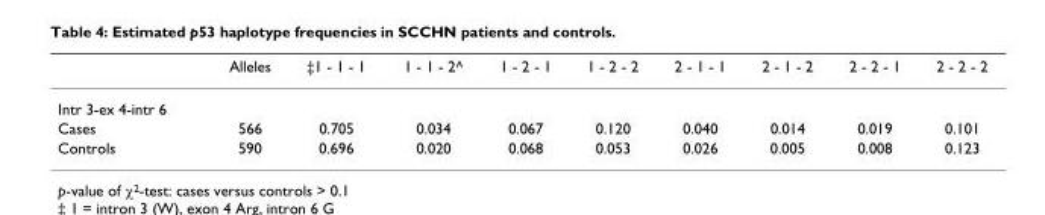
<table><thead><tr><td></td><td>Alleles</td><td>‡1 - 1 - 1</td><td>1 - 1 - 2^</td><td>1 - 2 - 1</td><td>1 - 2 - 2</td><td>2 - 1 - 1</td><td>2 - 1 - 2</td><td>2 - 2 - 1</td><td>2 - 2 - 2</td></tr></thead><tbody><tr><td colspan="10">Intr 3-ex 4-intr 6</td></tr><tr><td>Cases</td><td>566</td><td>0.705</td><td>0.034</td><td>0.067</td><td>0.120</td><td>0.040</td><td>0.014</td><td>0.019</td><td>0.101</td></tr><tr><td>Controls</td><td>590</td><td>0.696</td><td>0.020</td><td>0.068</td><td>0.053</td><td>0.026</td><td>0.005</td><td>0.008</td><td>0.123</td></tr></tbody></table>